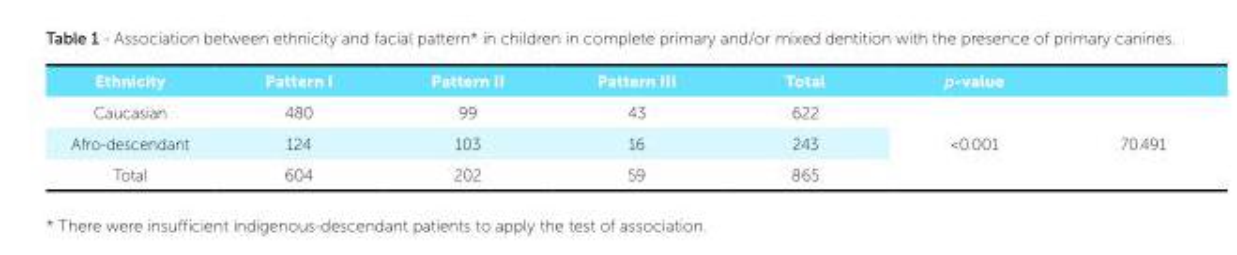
<table><thead><tr><td>Ethnicity</td><td>Pattern I</td><td>Pattern II</td><td>Pattern III</td><td>Total</td><td>p-value</td><td></td></tr></thead><tbody><tr><td>Caucasian</td><td>480</td><td>99</td><td>43</td><td>622</td><td rowspan="3">&lt;0.001</td><td rowspan="3">70.491</td></tr><tr><td>Afro-descendant</td><td>124</td><td>103</td><td>16</td><td>243</td></tr><tr><td>Total</td><td>604</td><td>202</td><td>59</td><td>865</td></tr></tbody></table>